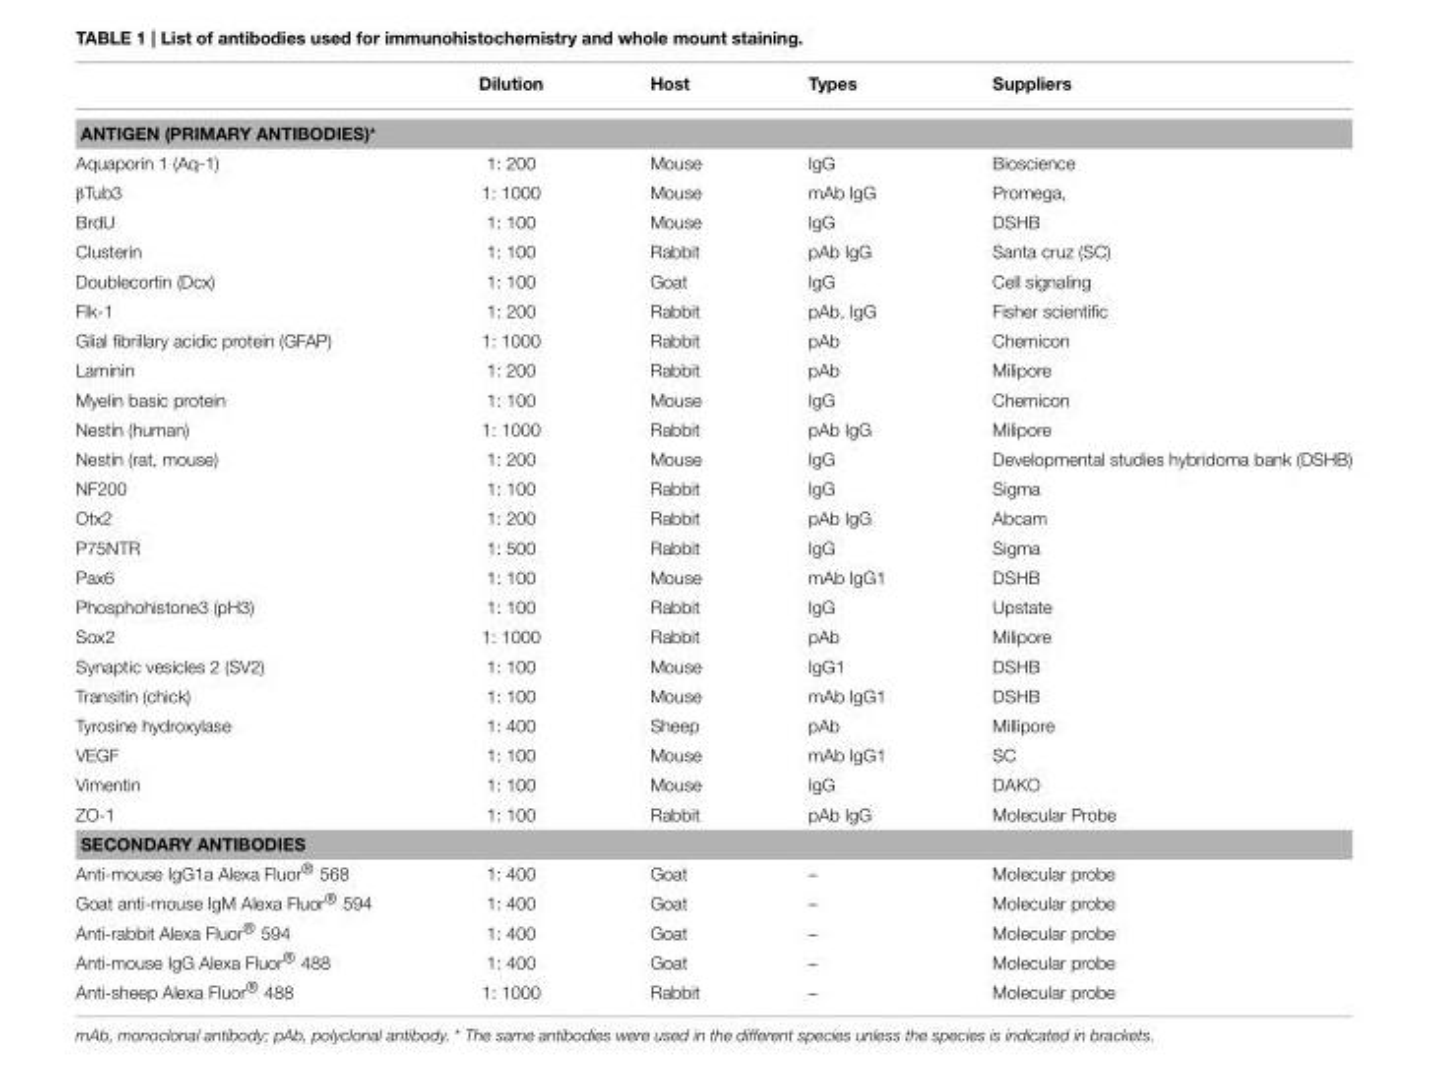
<table><thead><tr><td></td><td>Dilution</td><td>Host</td><td>Types</td><td>Suppliers</td></tr></thead><tbody><tr><td colspan="5">ANTIGEN (PRIMARY ANTIBODIES)*</td></tr><tr><td>Aquaporin 1 (Aq-1)</td><td>1: 200</td><td>Mouse</td><td>IgG</td><td>Bioscience</td></tr><tr><td>βTub3</td><td>1: 1000</td><td>Mouse</td><td>mAb IgG</td><td>Promega,</td></tr><tr><td>BrdU</td><td>1: 100</td><td>Mouse</td><td>IgG</td><td>DSHB</td></tr><tr><td>Clusterin</td><td>1: 100</td><td>Rabbit</td><td>pAb IgG</td><td>Santa cruz (SC)</td></tr><tr><td>Doublecortin (Dcx)</td><td>1: 100</td><td>Goat</td><td>IgG</td><td>Cell signaling</td></tr><tr><td>Flk-1</td><td>1: 200</td><td>Rabbit</td><td>pAb, IgG</td><td>Fisher scientific</td></tr><tr><td>Glial fibrillary acidic protein (GFAP)</td><td>1: 1000</td><td>Rabbit</td><td>pAb</td><td>Chemicon</td></tr><tr><td>Laminin</td><td>1: 200</td><td>Rabbit</td><td>pAb</td><td>Milipore</td></tr><tr><td>Myelin basic protein</td><td>1: 100</td><td>Mouse</td><td>IgG</td><td>Chemicon</td></tr><tr><td>Nestin (human)</td><td>1: 1000</td><td>Rabbit</td><td>pAb IgG</td><td>Milipore</td></tr><tr><td>Nestin (rat, mouse)</td><td>1: 200</td><td>Mouse</td><td>IgG</td><td>Developmental studies hybridoma bank (DSHB)</td></tr><tr><td>NF200</td><td>1: 100</td><td>Rabbit</td><td>IgG</td><td>Sigma</td></tr><tr><td>Otx2</td><td>1: 200</td><td>Rabbit</td><td>pAb IgG</td><td>Abcam</td></tr><tr><td>P75NTR</td><td>1: 500</td><td>Rabbit</td><td>IgG</td><td>Sigma</td></tr><tr><td>Pax6</td><td>1: 100</td><td>Mouse</td><td>mAb IgG1</td><td>DSHB</td></tr><tr><td>Phosphohistone3 (pH3)</td><td>1: 100</td><td>Rabbit</td><td>IgG</td><td>Upstate</td></tr><tr><td>Sox2</td><td>1: 1000</td><td>Rabbit</td><td>pAb</td><td>Milipore</td></tr><tr><td>Synaptic vesicles 2 (SV2)</td><td>1: 100</td><td>Mouse</td><td>IgG1</td><td>DSHB</td></tr><tr><td>Transitin (chick)</td><td>1: 100</td><td>Mouse</td><td>mAb IgG1</td><td>DSHB</td></tr><tr><td>Tyrosine hydroxylase</td><td>1: 400</td><td>Sheep</td><td>pAb</td><td>Millipore</td></tr><tr><td>VEGF</td><td>1: 100</td><td>Mouse</td><td>mAb IgG1</td><td>SC</td></tr><tr><td>Vimentin</td><td>1: 100</td><td>Mouse</td><td>IgG</td><td>DAKO</td></tr><tr><td>ZO-1</td><td>1: 100</td><td>Rabbit</td><td>pAb IgG</td><td>Molecular Probe</td></tr><tr><td colspan="5">SECONDARY ANTIBODIES</td></tr><tr><td>Anti-mouse IgG1a Alexa Fluor® 568</td><td>1: 400</td><td>Goat</td><td>–</td><td>Molecular probe</td></tr><tr><td>Goat anti-mouse IgM Alexa Fluor® 594</td><td>1: 400</td><td>Goat</td><td>–</td><td>Molecular probe</td></tr><tr><td>Anti-rabbit Alexa Fluor® 594</td><td>1: 400</td><td>Goat</td><td>–</td><td>Molecular probe</td></tr><tr><td>Anti-mouse IgG Alexa Fluor® 488</td><td>1: 400</td><td>Goat</td><td>–</td><td>Molecular probe</td></tr><tr><td>Anti-sheep Alexa Fluor® 488</td><td>1: 1000</td><td>Rabbit</td><td>–</td><td>Molecular probe</td></tr></tbody></table>